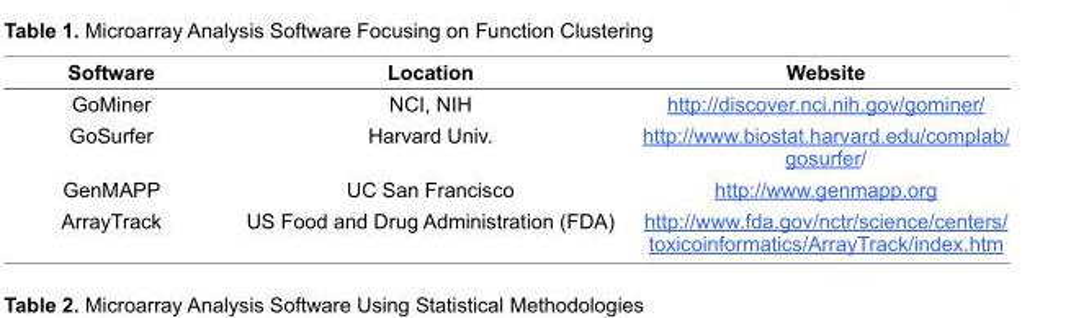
<table><thead><tr><td>Software</td><td>Location</td><td>Website</td></tr></thead><tbody><tr><td>GoMiner</td><td>NCI, NIH</td><td>http://discover.nci.nih.gov/gominer/</td></tr><tr><td>GoSurfer</td><td>Harvard Univ.</td><td>http://www.biostat.harvard.edu/complab/ gosurfer/</td></tr><tr><td>GenMAPP</td><td>UC San Francisco</td><td>http://www.genmapp.org</td></tr><tr><td>ArrayTrack</td><td>US Food and Drug Administration (FDA)</td><td>http://www.fda.gov/nctr/science/centers/ toxicoinformatics/ArrayTrack/index.htm</td></tr></tbody></table>